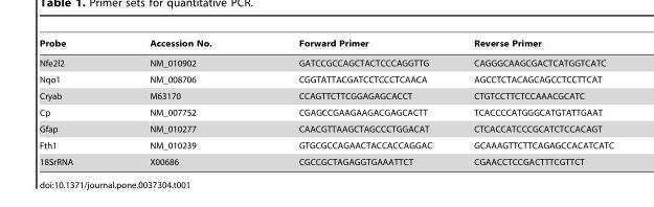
<table><thead><tr><td>Probe</td><td>Accession No.</td><td>Forward Primer</td><td>Reverse Primer</td></tr></thead><tbody><tr><td>Nfe2l2</td><td>NM_010902</td><td>GATCCGCCAGCTACTCCCAGGTTG</td><td>CAGGGCAAGCGACTCATGGTCATC</td></tr><tr><td>Nqo1</td><td>NM_008706</td><td>CGGTATTACGATCCTCCCTCAACA</td><td>AGCCTCTACAGCAGCCTCCTTCAT</td></tr><tr><td>Cryab</td><td>M63170</td><td>CCAGTTCTTCGGAGAGCACCT</td><td>CTGTCCTTCTCCAAACGCATC</td></tr><tr><td>Cp</td><td>NM_007752</td><td>CGAGCCGAAGAAGACGAGCACTT</td><td>TCACCCCATGGGCATGTATTGAAT</td></tr><tr><td>Gfap</td><td>NM_010277</td><td>CAACGTTAAGCTAGCCCTGGACAT</td><td>CTCACCATCCCGCATCTCCACAGT</td></tr><tr><td>Fth1</td><td>NM_010239</td><td>GTGCGCCAGAACTACCACCAGGAC</td><td>GCAAAGTTCTTCAGAGCCACATCATC</td></tr><tr><td>18SrRNA</td><td>X00686</td><td>CGCCGCTAGAGGTGAAATTCT</td><td>CGAACCTCCGACTTTCGTTCT</td></tr></tbody></table>